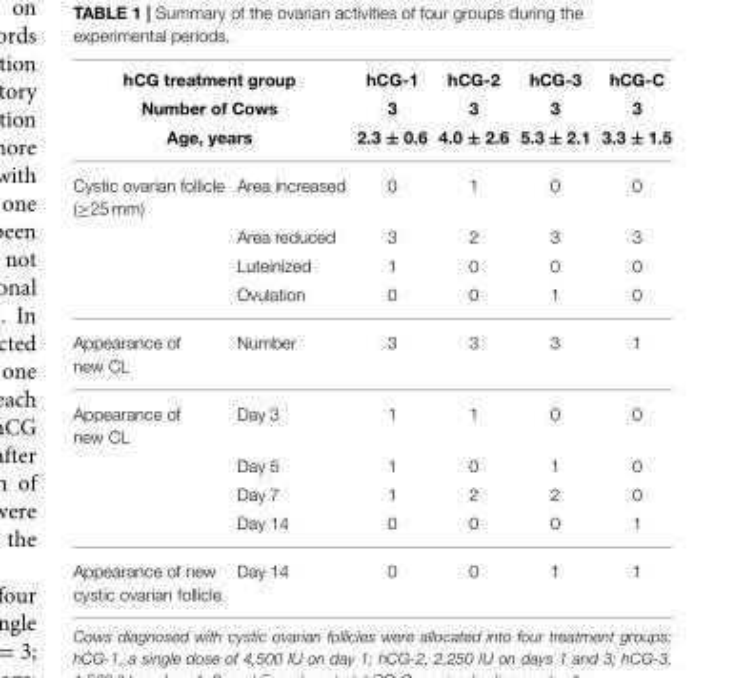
<table><thead><tr><td rowspan="3" colspan="2">hCG treatment group Number of Cows Age, years</td><td rowspan="4">hCG-1 3 2.3 ± 0.6 0</td><td rowspan="4">hCG-2 3 4.0 ± 2.6 1</td><td rowspan="4">hCG-3 3 5.3 ± 2.1 0</td><td rowspan="4">hCG-C 3 3.3 ± 1.5 0</td></tr><tr></tr><tr></tr><tr><td>Cystic ovarian follicle (≥25 mm)</td><td>Area increased</td></tr></thead><tbody><tr><td></td><td>Area reduced</td><td>3</td><td>2</td><td>3</td><td>3</td></tr><tr><td></td><td>Luteinized</td><td>1</td><td>0</td><td>0</td><td>0</td></tr><tr><td></td><td>Ovulation</td><td>0</td><td>0</td><td>1</td><td>0</td></tr><tr><td>Appearance of new CL</td><td>Number</td><td>3</td><td>3</td><td>3</td><td>1</td></tr><tr><td rowspan="4">Appearance of new CL</td><td>Day 3</td><td>1</td><td>1</td><td>0</td><td>0</td></tr><tr><td>Day 5</td><td>1</td><td>0</td><td>1</td><td>0</td></tr><tr><td>Day 7</td><td>1</td><td>2</td><td>2</td><td>0</td></tr><tr><td>Day 14</td><td>0</td><td>0</td><td>0</td><td>1</td></tr><tr><td>Appearance of new cystic ovarian follicle</td><td>Day 14</td><td>0</td><td>0</td><td>1</td><td>1</td></tr></tbody></table>